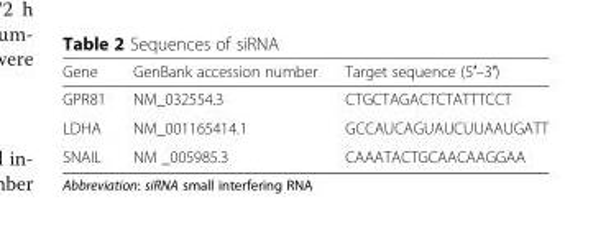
<table><thead><tr><td>Gene</td><td>GenBank accession number</td><td>Target sequence (5′–3′)</td></tr></thead><tbody><tr><td>GPR81</td><td>NM_032554.3</td><td>CTGCTAGACTCTATTTCCT</td></tr><tr><td>LDHA</td><td>NM_001165414.1</td><td>GCCAUCAGUAUCUUAAUGATT</td></tr><tr><td>SNAIL</td><td>NM _005985.3</td><td>CAAATACTGCAACAAGGAA</td></tr></tbody></table>